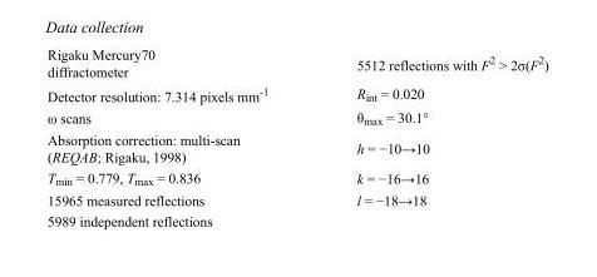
<table><tbody><tr><td>Rigaku Mercury70 diffractometer</td><td>5512 reflections with F<sup>2</sup> &gt; 2σ(F<sup>2</sup>)</td></tr><tr><td>Detector resolution: 7.314 pixels mm<sup>-1</sup></td><td>R<sub>int</sub> = 0.020</td></tr><tr><td>ω scans</td><td>θ<sub>max</sub> = 30.1°</td></tr><tr><td>Absorption correction: multi-scan (REQAB; Rigaku, 1998)</td><td>h = −10→10</td></tr><tr><td>T<sub>min</sub> = 0.779, T<sub>max</sub> = 0.836</td><td>k = −16→16</td></tr><tr><td>15965 measured reflections</td><td>l = −18→18</td></tr><tr><td>5989 independent reflections</td><td></td></tr></tbody></table>